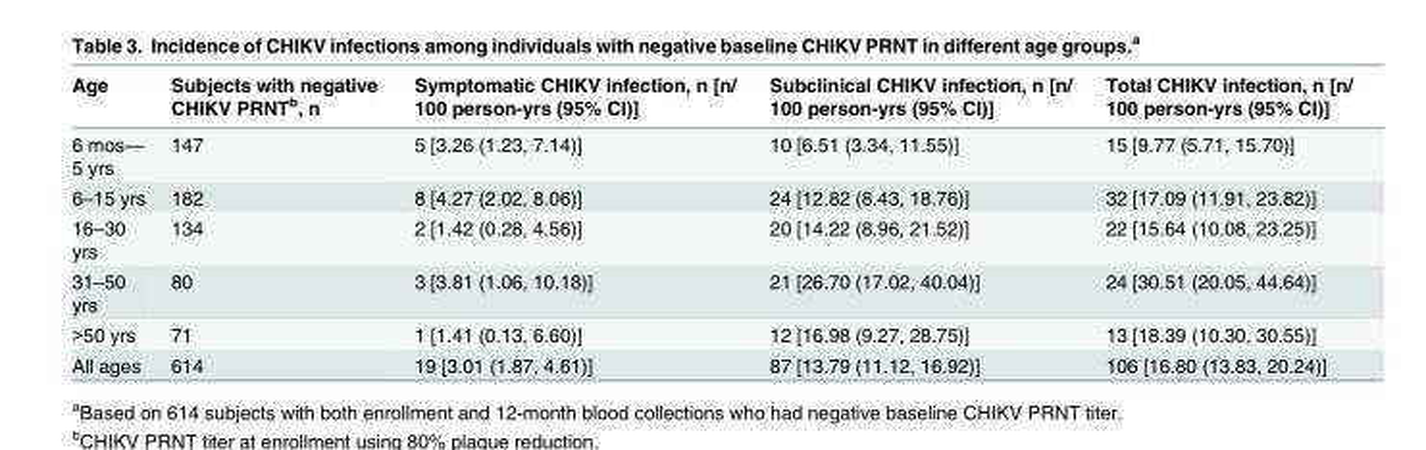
<table><thead><tr><td>Age</td><td>Subjects with negative CHIKV PRNT<sup>b</sup>, n</td><td>Symptomatic CHIKV infection, n [n/ 100 person-yrs (95% CI)]</td><td>Subclinical CHIKV infection, n [n/ 100 person-yrs (95% CI)]</td><td>Total CHIKV infection, n [n/ 100 person-yrs (95% CI)]</td></tr></thead><tbody><tr><td>6 mos— 5 yrs</td><td>147</td><td>5 [3.26 (1.23, 7.14)]</td><td>10 [6.51 (3.34, 11.55)]</td><td>15 [9.77 (5.71, 15.70)]</td></tr><tr><td>6–15 yrs</td><td>182</td><td>8 [4.27 (2.02, 8.06)]</td><td>24 [12.82 (8.43, 18.76)]</td><td>32 [17.09 (11.91, 23.82)]</td></tr><tr><td>16–30 yrs</td><td>134</td><td>2 [1.42 (0.28, 4.56)]</td><td>20 [14.22 (8.96, 21.52)]</td><td>22 [15.64 (10.08, 23.25)]</td></tr><tr><td>31–50 yrs</td><td>80</td><td>3 [3.81 (1.06, 10.18)]</td><td>21 [26.70 (17.02, 40.04)]</td><td>24 [30.51 (20.05, 44.64)]</td></tr><tr><td>&gt;50 yrs</td><td>71</td><td>1 [1.41 (0.13, 6.60)]</td><td>12 [16.98 (9.27, 28.75)]</td><td>13 [18.39 (10.30, 30.55)]</td></tr><tr><td>All ages</td><td>614</td><td>19 [3.01 (1.87, 4.61)]</td><td>87 [13.79 (11.12, 16.92)]</td><td>106 [16.80 (13.83, 20.24)]</td></tr></tbody></table>